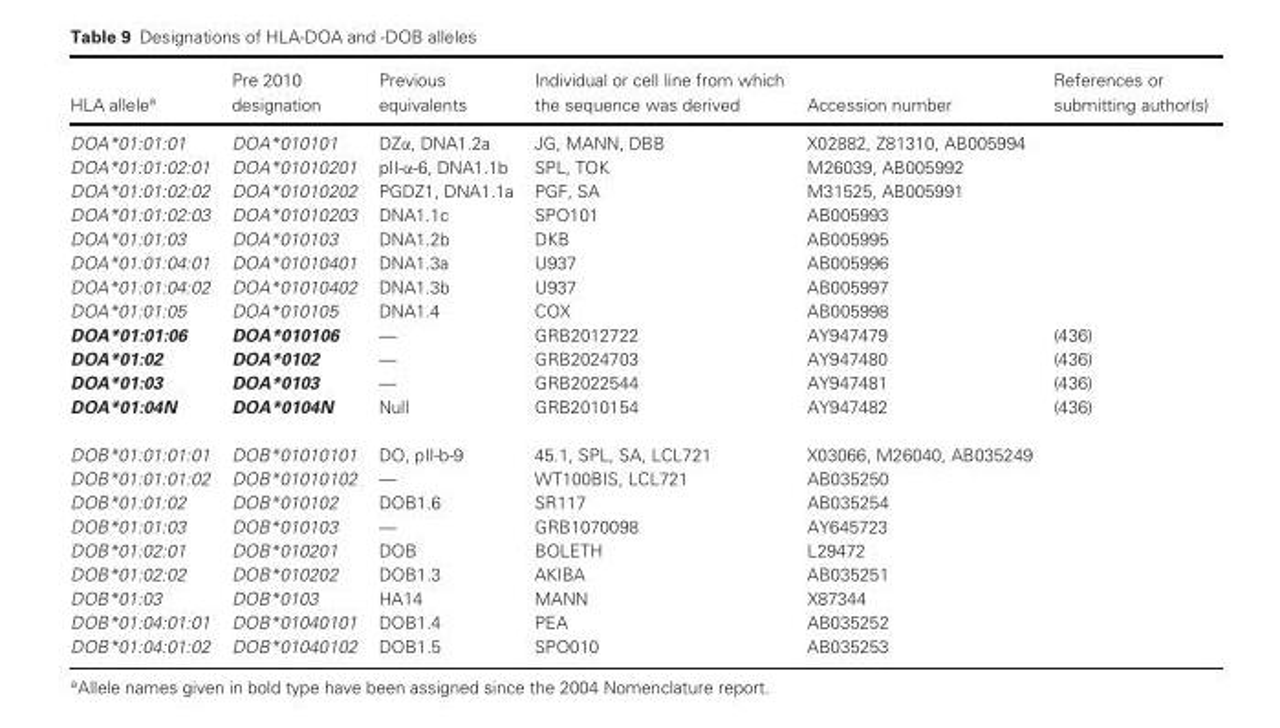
<table><thead><tr><td>HLA allele<sup>a</sup></td><td>Pre 2010 designation</td><td>Previous equivalents</td><td>Individual or cell line from which the sequence was derived</td><td>Accession number</td><td>References or submitting author(s)</td></tr></thead><tbody><tr><td>DOA*01:01:01</td><td>DOA*010101</td><td>DZα, DNA1.2a</td><td>JG, MANN, DBB</td><td>X02882, Z81310, AB005994</td><td></td></tr><tr><td>DOA*01:01:02:01</td><td>DOA*01010201</td><td>pII-α-6, DNA1.1b</td><td>SPL, TOK</td><td>M26039, AB005992</td><td></td></tr><tr><td>DOA*01:01:02:02</td><td>DOA*01010202</td><td>PGDZ1, DNA1.1a</td><td>PGF, SA</td><td>M31525, AB005991</td><td></td></tr><tr><td>DOA*01:01:02:03</td><td>DOA*01010203</td><td>DNA1.1c</td><td>SPO101</td><td>AB005993</td><td></td></tr><tr><td>DOA*01:01:03</td><td>DOA*010103</td><td>DNA1.2b</td><td>DKB</td><td>AB005995</td><td></td></tr><tr><td>DOA*01:01:04:01</td><td>DOA*01010401</td><td>DNA1.3a</td><td>U937</td><td>AB005996</td><td></td></tr><tr><td>DOA*01:01:04:02</td><td>DOA*01010402</td><td>DNA1.3b</td><td>U937</td><td>AB005997</td><td></td></tr><tr><td>DOA*01:01:05</td><td>DOA*010105</td><td>DNA1.4</td><td>COX</td><td>AB005998</td><td></td></tr><tr><td>DOA*01:01:06</td><td>DOA*010106</td><td>—</td><td>GRB2012722</td><td>AY947479</td><td>(436)</td></tr><tr><td>DOA*01:02</td><td>DOA*0102</td><td>—</td><td>GRB2024703</td><td>AY947480</td><td>(436)</td></tr><tr><td>DOA*01:03</td><td>DOA*0103</td><td>—</td><td>GRB2022544</td><td>AY947481</td><td>(436)</td></tr><tr><td>DOA*01:04N</td><td>DOA*0104N</td><td>Null</td><td>GRB2010154</td><td>AY947482</td><td>(436)</td></tr><tr><td>DOB*01:01:01:01</td><td>DOB*01010101</td><td>DO, pII-b-9</td><td>45.1, SPL, SA, LCL721</td><td>X03066, M26040, AB035249</td><td></td></tr><tr><td>DOB*01:01:01:02</td><td>DOB*01010102</td><td>—</td><td>WT100BIS, LCL721</td><td>AB035250</td><td></td></tr><tr><td>DOB*01:01:02</td><td>DOB*010102</td><td>DOB1.6</td><td>SR117</td><td>AB035254</td><td></td></tr><tr><td>DOB*01:01:03</td><td>DOB*010103</td><td>—</td><td>GRB1070098</td><td>AY645723</td><td></td></tr><tr><td>DOB*01:02:01</td><td>DOB*010201</td><td>DOB</td><td>BOLETH</td><td>L29472</td><td></td></tr><tr><td>DOB*01:02:02</td><td>DOB*010202</td><td>DOB1.3</td><td>AKIBA</td><td>AB035251</td><td></td></tr><tr><td>DOB*01:03</td><td>DOB*0103</td><td>HA14</td><td>MANN</td><td>X87344</td><td></td></tr><tr><td>DOB*01:04:01:01</td><td>DOB*01040101</td><td>DOB1.4</td><td>PEA</td><td>AB035252</td><td></td></tr><tr><td>DOB*01:04:01:02</td><td>DOB*01040102</td><td>DOB1.5</td><td>SPO010</td><td>AB035253</td><td></td></tr></tbody></table>